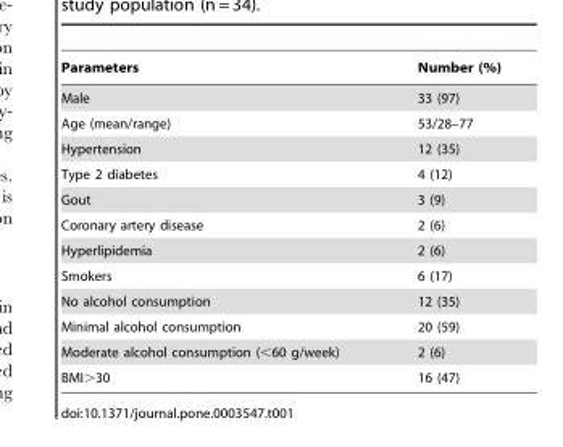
<table><thead><tr><td>Parameters</td><td>Number (%)</td></tr></thead><tbody><tr><td>Male</td><td>33 (97)</td></tr><tr><td>Age (mean/range)</td><td>53/28–77</td></tr><tr><td>Hypertension</td><td>12 (35)</td></tr><tr><td>Type 2 diabetes</td><td>4 (12)</td></tr><tr><td>Gout</td><td>3 (9)</td></tr><tr><td>Coronary artery disease</td><td>2 (6)</td></tr><tr><td>Hyperlipidemia</td><td>2 (6)</td></tr><tr><td>Smokers</td><td>6 (17)</td></tr><tr><td>No alcohol consumption</td><td>12 (35)</td></tr><tr><td>Minimal alcohol consumption</td><td>20 (59)</td></tr><tr><td>Moderate alcohol consumption (&lt;60 g/week)</td><td>2 (6)</td></tr><tr><td>BMI&gt;30</td><td>16 (47)</td></tr></tbody></table>